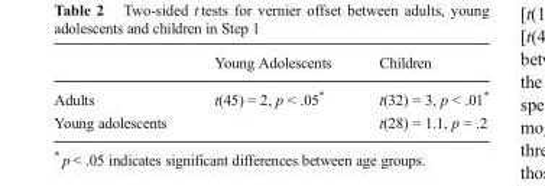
<table><thead><tr><td></td><td>Young Adolescents</td><td>Children</td></tr></thead><tbody><tr><td>Adults</td><td>t(45) = 2, p &lt; .05*</td><td>t(32) = 3, p &lt; .01*</td></tr><tr><td>Young adolescents</td><td></td><td>t(28) = 1.1, p = .2</td></tr></tbody></table>